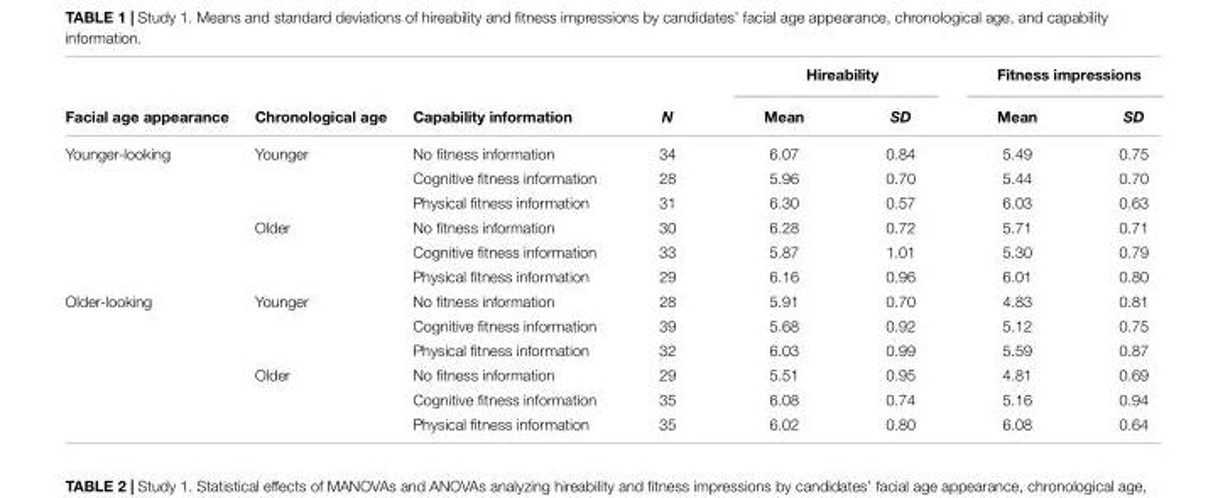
<table><thead><tr><td rowspan="2">Facial age appearance</td><td rowspan="2">Chronological age</td><td rowspan="2">Capability information</td><td rowspan="2">N</td><td colspan="2">Hireability</td><td colspan="2">Fitness impressions</td></tr><tr><td>Mean</td><td>SD</td><td>Mean</td><td>SD</td></tr></thead><tbody><tr><td rowspan="6">Younger-looking</td><td>Younger</td><td>No fitness information</td><td>34</td><td>6.07</td><td>0.84</td><td>5.49</td><td>0.75</td></tr><tr><td></td><td>Cognitive fitness information</td><td>28</td><td>5.96</td><td>0.70</td><td>5.44</td><td>0.70</td></tr><tr><td></td><td>Physical fitness information</td><td>31</td><td>6.30</td><td>0.57</td><td>6.03</td><td>0.63</td></tr><tr><td>Older</td><td>No fitness information</td><td>30</td><td>6.28</td><td>0.72</td><td>5.71</td><td>0.71</td></tr><tr><td></td><td>Cognitive fitness information</td><td>33</td><td>5.87</td><td>1.01</td><td>5.30</td><td>0.79</td></tr><tr><td></td><td>Physical fitness information</td><td>29</td><td>6.16</td><td>0.96</td><td>6.01</td><td>0.80</td></tr><tr><td rowspan="6">Older-looking</td><td>Younger</td><td>No fitness information</td><td>28</td><td>5.91</td><td>0.70</td><td>4.83</td><td>0.81</td></tr><tr><td></td><td>Cognitive fitness information</td><td>39</td><td>5.68</td><td>0.92</td><td>5.12</td><td>0.75</td></tr><tr><td></td><td>Physical fitness information</td><td>32</td><td>6.03</td><td>0.99</td><td>5.59</td><td>0.87</td></tr><tr><td>Older</td><td>No fitness information</td><td>29</td><td>5.51</td><td>0.95</td><td>4.81</td><td>0.69</td></tr><tr><td></td><td>Cognitive fitness information</td><td>35</td><td>6.08</td><td>0.74</td><td>5.16</td><td>0.94</td></tr><tr><td></td><td>Physical fitness information</td><td>35</td><td>6.02</td><td>0.80</td><td>6.08</td><td>0.64</td></tr></tbody></table>